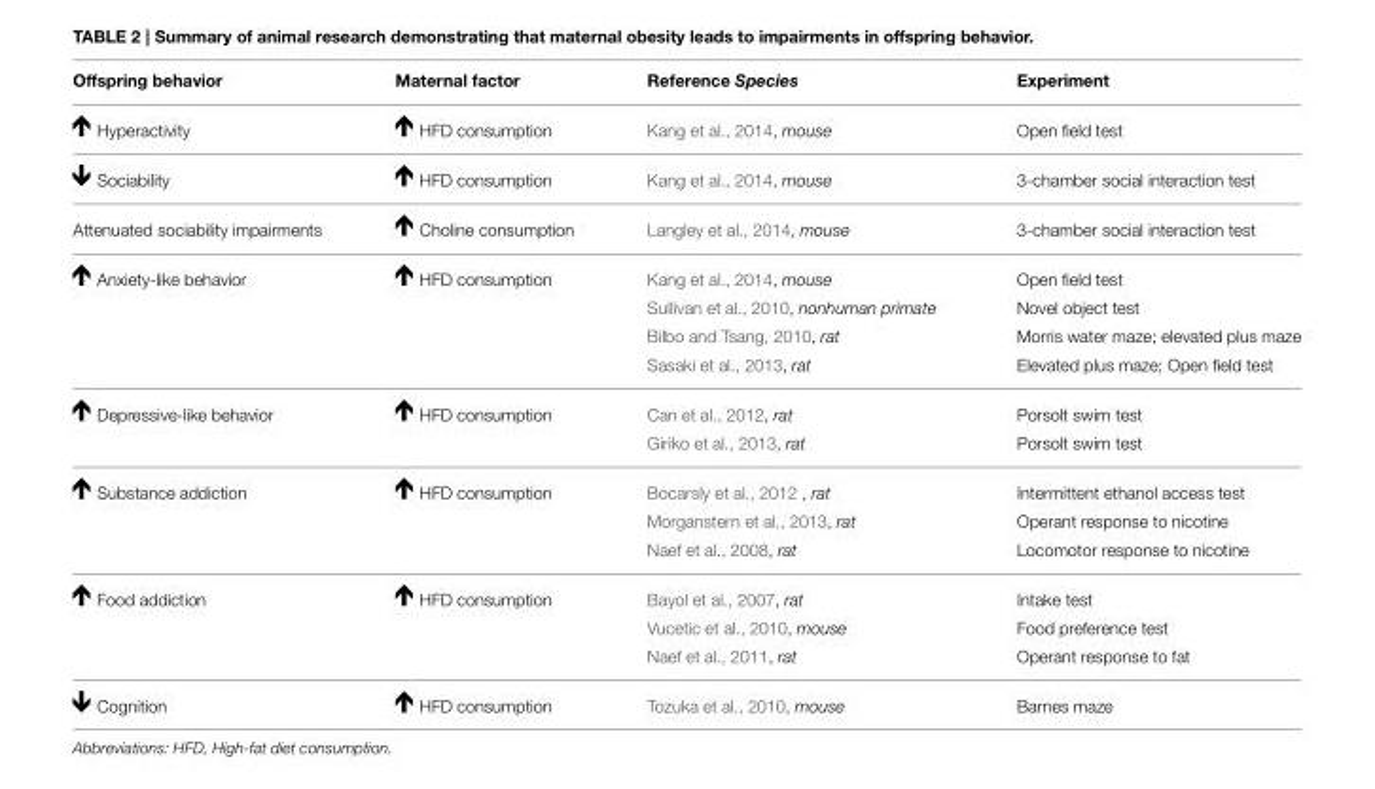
<table><thead><tr><td>Offspring behavior</td><td>Maternal factor</td><td>Reference Species</td><td>Experiment</td></tr></thead><tbody><tr><td>Hyperactivity</td><td>HFD consumption</td><td>Kang et al., 2014, mouse</td><td>Open field test</td></tr><tr><td>Sociability</td><td>HFD consumption</td><td>Kang et al., 2014, mouse</td><td>3-chamber social interaction test</td></tr><tr><td>Attenuated sociability impairments</td><td>Choline consumption</td><td>Langley et al., 2014, mouse</td><td>3-chamber social interaction test</td></tr><tr><td rowspan="4">Anxiety-like behavior</td><td>HFD consumption</td><td>Kang et al., 2014, mouse</td><td>Open field test</td></tr><tr><td></td><td>Sullivan et al., 2010, nonhuman primate</td><td>Novel object test</td></tr><tr><td></td><td>Bilbo and Tsang, 2010, rat</td><td>Morris water maze; elevated plus maze</td></tr><tr><td></td><td>Sasaki et al., 2013, rat</td><td>Elevated plus maze; Open field test</td></tr><tr><td rowspan="2">Depressive-like behavior</td><td>HFD consumption</td><td>Can et al., 2012, rat</td><td>Porsolt swim test</td></tr><tr><td></td><td>Giriko et al., 2013, rat</td><td>Porsolt swim test</td></tr><tr><td rowspan="3">Substance addiction</td><td>HFD consumption</td><td>Bocarsly et al., 2012 , rat</td><td>Intermittent ethanol access test</td></tr><tr><td></td><td>Morganstern et al., 2013, rat</td><td>Operant response to nicotine</td></tr><tr><td></td><td>Naef et al., 2008, rat</td><td>Locomotor response to nicotine</td></tr><tr><td rowspan="3">Food addiction</td><td>HFD consumption</td><td>Bayol et al., 2007, rat</td><td>Intake test</td></tr><tr><td></td><td>Vucetic et al., 2010, mouse</td><td>Food preference test</td></tr><tr><td></td><td>Naef et al., 2011, rat</td><td>Operant response to fat</td></tr><tr><td>Cognition</td><td>HFD consumption</td><td>Tozuka et al., 2010, mouse</td><td>Barnes maze</td></tr></tbody></table>